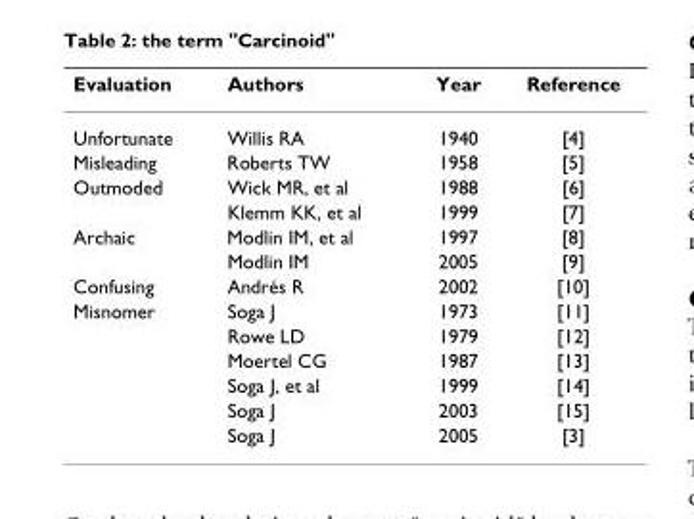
<table><thead><tr><td>Evaluation</td><td>Authors</td><td>Year</td><td>Reference</td></tr></thead><tbody><tr><td>Unfortunate</td><td>Willis RA</td><td>1940</td><td>[4]</td></tr><tr><td>Misleading</td><td>Roberts TW</td><td>1958</td><td>[5]</td></tr><tr><td rowspan="2">Outmoded</td><td>Wick MR, et al</td><td>1988</td><td>[6]</td></tr><tr><td>Klemm KK, et al</td><td>1999</td><td>[7]</td></tr><tr><td rowspan="2">Archaic</td><td>Modlin IM, et al</td><td>1997</td><td>[8]</td></tr><tr><td>Modlin IM</td><td>2005</td><td>[9]</td></tr><tr><td>Confusing</td><td>Andrés R</td><td>2002</td><td>[10]</td></tr><tr><td rowspan="6">Misnomer</td><td>Soga J</td><td>1973</td><td>[11]</td></tr><tr><td>Rowe LD</td><td>1979</td><td>[12]</td></tr><tr><td>Moertel CG</td><td>1987</td><td>[13]</td></tr><tr><td>Soga J, et al</td><td>1999</td><td>[14]</td></tr><tr><td>Soga J</td><td>2003</td><td>[15]</td></tr><tr><td>Soga J</td><td>2005</td><td>[3]</td></tr></tbody></table>